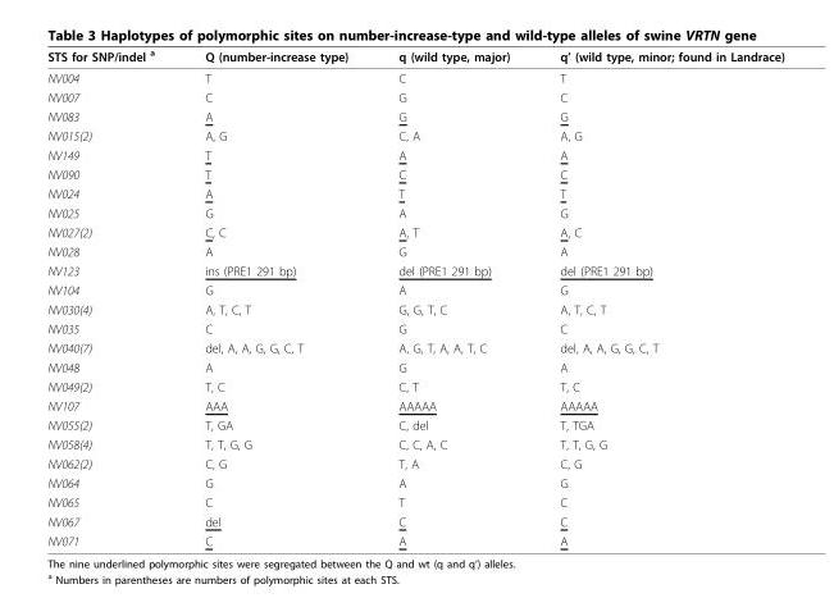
<table><thead><tr><td>STS for SNP/indel <sup>a</sup></td><td>Q (number-increase type)</td><td>q (wild type, major)</td><td>q’ (wild type, minor; found in Landrace)</td></tr></thead><tbody><tr><td>NV004</td><td>T</td><td>C</td><td>T</td></tr><tr><td>NV007</td><td>C</td><td>G</td><td>C</td></tr><tr><td>NV083</td><td>A</td><td>G</td><td>G</td></tr><tr><td>NV015(2)</td><td>A, G</td><td>C, A</td><td>A, G</td></tr><tr><td>NV149</td><td>T</td><td>A</td><td>A</td></tr><tr><td>NV090</td><td>T</td><td>C</td><td>C</td></tr><tr><td>NV024</td><td>A</td><td>T</td><td>T</td></tr><tr><td>NV025</td><td>G</td><td>A</td><td>G</td></tr><tr><td>NV027(2)</td><td>C, C</td><td>A, T</td><td>A, C</td></tr><tr><td>NV028</td><td>A</td><td>G</td><td>A</td></tr><tr><td>NV123</td><td>ins (PRE1 291 bp)</td><td>del (PRE1 291 bp)</td><td>del (PRE1 291 bp)</td></tr><tr><td>NV104</td><td>G</td><td>A</td><td>G</td></tr><tr><td>NV030(4)</td><td>A, T, C, T</td><td>G, G, T, C</td><td>A, T, C, T</td></tr><tr><td>NV035</td><td>C</td><td>G</td><td>C</td></tr><tr><td>NV040(7)</td><td>del, A, A, G, G, C, T</td><td>A, G, T, A, A, T, C</td><td>del, A, A, G, G, C, T</td></tr><tr><td>NV048</td><td>A</td><td>G</td><td>A</td></tr><tr><td>NV049(2)</td><td>T, C</td><td>C, T</td><td>T, C</td></tr><tr><td>NV107</td><td>AAA</td><td>AAAAA</td><td>AAAAA</td></tr><tr><td>NV055(2)</td><td>T, GA</td><td>C, del</td><td>T, TGA</td></tr><tr><td>NV058(4)</td><td>T, T, G, G</td><td>C, C, A, C</td><td>T, T, G, G</td></tr><tr><td>NV062(2)</td><td>C, G</td><td>T, A</td><td>C, G</td></tr><tr><td>NV064</td><td>G</td><td>A</td><td>G</td></tr><tr><td>NV065</td><td>C</td><td>T</td><td>C</td></tr><tr><td>NV067</td><td>del</td><td>C</td><td>C</td></tr><tr><td>NV071</td><td>C</td><td>A</td><td>A</td></tr></tbody></table>